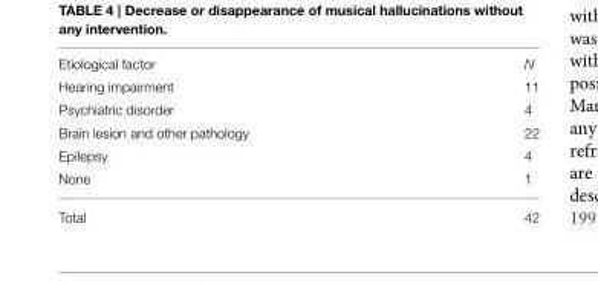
<table><tbody><tr><td>Etiological factor</td><td>N</td></tr><tr><td>Hearing impairment</td><td>11</td></tr><tr><td>Psychiatric disorder</td><td>4</td></tr><tr><td>Brain lesion and other pathology</td><td>22</td></tr><tr><td>Epilepsy</td><td>4</td></tr><tr><td>None</td><td>1</td></tr><tr><td>Total</td><td>42</td></tr></tbody></table>